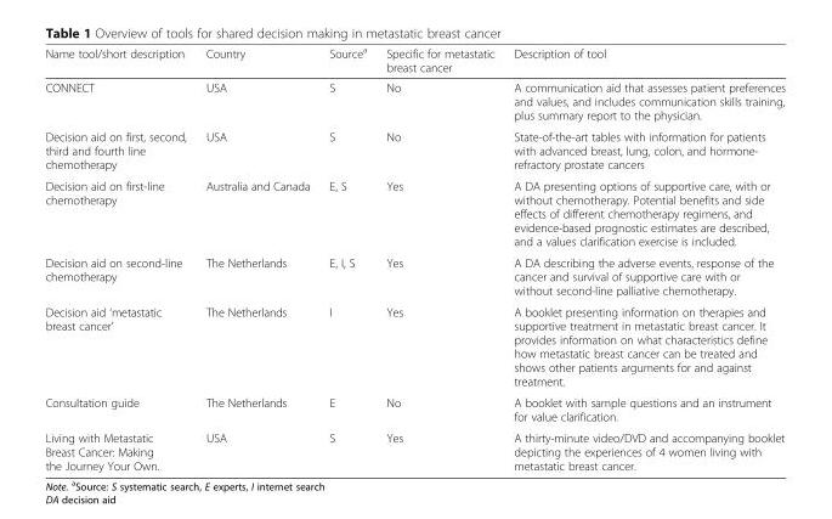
<table><thead><tr><td>Name tool/short description</td><td>Country</td><td>Source<sup>a</sup></td><td>Specific for metastatic breast cancer</td><td>Description of tool</td></tr></thead><tbody><tr><td>CONNECT</td><td>USA</td><td>S</td><td>No</td><td>A communication aid that assesses patient preferences and values, and includes communication skills training, plus summary report to the physician.</td></tr><tr><td>Decision aid on first, second, third and fourth line chemotherapy</td><td>USA</td><td>S</td><td>No</td><td>State-of-the-art tables with information for patients with advanced breast, lung, colon, and hormone- refractory prostate cancers</td></tr><tr><td>Decision aid on first-line chemotherapy</td><td>Australia and Canada</td><td>E, S</td><td>Yes</td><td>A DA presenting options of supportive care, with or without chemotherapy. Potential benefits and side effects of different chemotherapy regimens, and evidence-based prognostic estimates are described, and a values clarification exercise is included.</td></tr><tr><td>Decision aid on second-line chemotherapy</td><td>The Netherlands</td><td>E, I, S</td><td>Yes</td><td>A DA describing the adverse events, response of the cancer and survival of supportive care with or without second-line palliative chemotherapy.</td></tr><tr><td>Decision aid ‘metastatic breast cancer’</td><td>The Netherlands</td><td>I</td><td>Yes</td><td>A booklet presenting information on therapies and supportive treatment in metastatic breast cancer. It provides information on what characteristics define how metastatic breast cancer can be treated and shows other patients arguments for and against treatment.</td></tr><tr><td>Consultation guide</td><td>The Netherlands</td><td>E</td><td>No</td><td>A booklet with sample questions and an instrument for value clarification.</td></tr><tr><td>Living with Metastatic Breast Cancer: Making the Journey Your Own.</td><td>USA</td><td>S</td><td>Yes</td><td>A thirty-minute video/DVD and accompanying booklet depicting the experiences of 4 women living with metastatic breast cancer.</td></tr></tbody></table>